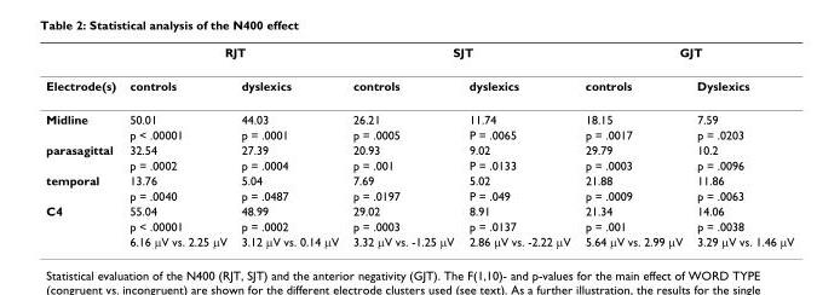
<table><thead><tr><td rowspan="2">Electrode(s)</td><td colspan="2">RJT</td><td colspan="2">SJT</td><td colspan="2">GJT</td></tr><tr><td>controls</td><td>dyslexics</td><td>controls</td><td>dyslexics</td><td>controls</td><td>Dyslexics</td></tr></thead><tbody><tr><td rowspan="2">Midline</td><td>50.01</td><td>44.03</td><td>26.21</td><td>11.74</td><td>18.15</td><td>7.59</td></tr><tr><td>p &lt; .00001</td><td>p = .0001</td><td>p = .0005</td><td>P = .0065</td><td>p = .0017</td><td>p = .0203</td></tr><tr><td rowspan="2">parasagittal</td><td>32.54</td><td>27.39</td><td>20.93</td><td>9.02</td><td>29.79</td><td>10.2</td></tr><tr><td>p = .0002</td><td>p = .0004</td><td>p = .001</td><td>P = .0133</td><td>p = .0003</td><td>p = .0096</td></tr><tr><td rowspan="2">temporal</td><td>13.76</td><td>5.04</td><td>7.69</td><td>5.02</td><td>21.88</td><td>11.86</td></tr><tr><td>p = .0040</td><td>p = .0487</td><td>p = .0197</td><td>P = .049</td><td>p = .0009</td><td>p = .0063</td></tr><tr><td rowspan="3">C4</td><td>55.04</td><td>48.99</td><td>29.02</td><td>8.91</td><td>21.34</td><td>14.06</td></tr><tr><td>p &lt; .00001</td><td>p = .0002</td><td>p = .0003</td><td>p = .0137</td><td>p = .001</td><td>p = .0038</td></tr><tr><td>6.16 μV vs. 2.25 μV</td><td>3.12 μV vs. 0.14 μV</td><td>3.32 μV vs. -1.25 μV</td><td>2.86 μV vs. -2.22 μV</td><td>5.64 μV vs. 2.99 μV</td><td>3.29 μV vs. 1.46 μV</td></tr></tbody></table>